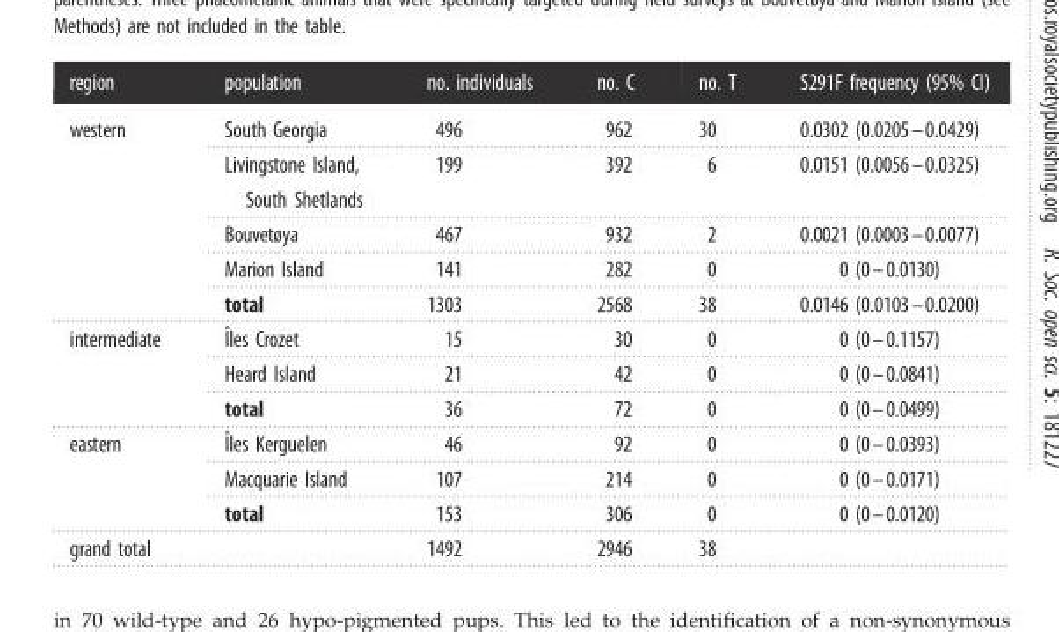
<table><thead><tr><td>region</td><td>population</td><td>no. individuals</td><td>no. C</td><td>no. T</td><td>S291F frequency (95% CI)</td></tr></thead><tbody><tr><td rowspan="5">western</td><td>South Georgia</td><td>496</td><td>962</td><td>30</td><td>0.0302 (0.0205–0.0429)</td></tr><tr><td>Livingstone Island, South Shetlands</td><td>199</td><td>392</td><td>6</td><td>0.0151 (0.0056–0.0325)</td></tr><tr><td>Bouvetøya</td><td>467</td><td>932</td><td>2</td><td>0.0021 (0.0003–0.0077)</td></tr><tr><td>Marion Island</td><td>141</td><td>282</td><td>0</td><td>0 (0–0.0130)</td></tr><tr><td>total</td><td>1303</td><td>2568</td><td>38</td><td>0.0146 (0.0103–0.0200)</td></tr><tr><td rowspan="3">intermediate</td><td>Iˆles Crozet</td><td>15</td><td>30</td><td>0</td><td>0 (0–0.1157)</td></tr><tr><td>Heard Island</td><td>21</td><td>42</td><td>0</td><td>0 (0–0.0841)</td></tr><tr><td>total</td><td>36</td><td>72</td><td>0</td><td>0 (0–0.0499)</td></tr><tr><td rowspan="3">eastern</td><td>Iˆles Kerguelen</td><td>46</td><td>92</td><td>0</td><td>0 (0–0.0393)</td></tr><tr><td>Macquarie Island</td><td>107</td><td>214</td><td>0</td><td>0 (0–0.0171)</td></tr><tr><td>total</td><td>153</td><td>306</td><td>0</td><td>0 (0–0.0120)</td></tr><tr><td>grand total</td><td></td><td>1492</td><td>2946</td><td>38</td><td></td></tr></tbody></table>